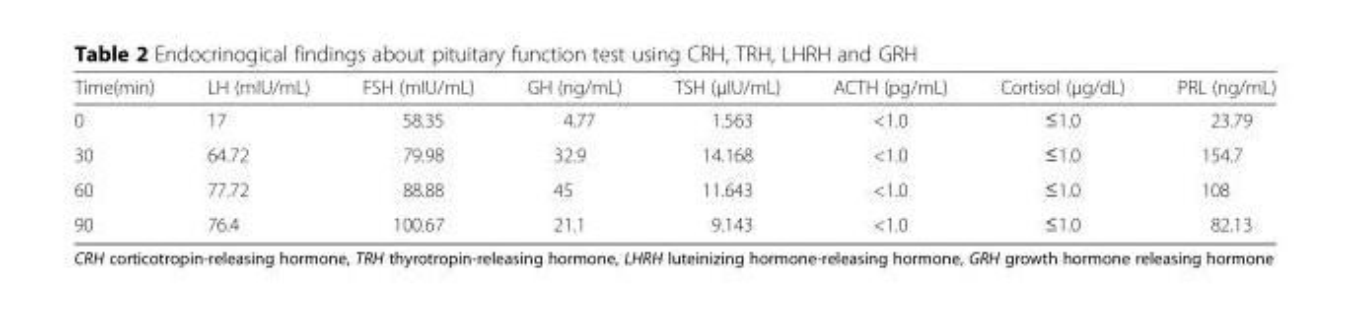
<table><thead><tr><td>Time(min)</td><td>LH (mIU/mL)</td><td>FSH (mIU/mL)</td><td>GH (ng/mL)</td><td>TSH (μIU/mL)</td><td>ACTH (pg/mL)</td><td>Cortisol (μg/dL)</td><td>PRL (ng/mL)</td></tr></thead><tbody><tr><td>0</td><td>17</td><td>58.35</td><td>4.77</td><td>1.563</td><td>&lt;1.0</td><td>≤1.0</td><td>23.79</td></tr><tr><td>30</td><td>64.72</td><td>79.98</td><td>32.9</td><td>14.168</td><td>&lt;1.0</td><td>≤1.0</td><td>154.7</td></tr><tr><td>60</td><td>77.72</td><td>88.88</td><td>45</td><td>11.643</td><td>&lt;1.0</td><td>≤1.0</td><td>108</td></tr><tr><td>90</td><td>76.4</td><td>100.67</td><td>21.1</td><td>9.143</td><td>&lt;1.0</td><td>≤1.0</td><td>82.13</td></tr></tbody></table>